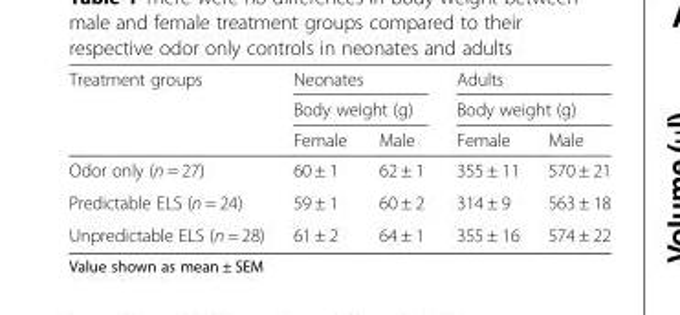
<table><thead><tr><td rowspan="3">Treatment groups</td><td rowspan="2" colspan="2">Neonates Body weight (g)</td><td rowspan="2" colspan="2">Adults Body weight (g)</td></tr><tr></tr><tr><td>Female</td><td>Male</td><td>Female</td><td>Male</td></tr></thead><tbody><tr><td>Odor only (n = 27)</td><td>60 ± 1</td><td>62 ± 1</td><td>355 ± 11</td><td>570 ± 21</td></tr><tr><td>Predictable ELS (n = 24)</td><td>59 ± 1</td><td>60 ± 2</td><td>314 ± 9</td><td>563 ± 18</td></tr><tr><td>Unpredictable ELS (n = 28)</td><td>61 ± 2</td><td>64 ± 1</td><td>355 ± 16</td><td>574 ± 22</td></tr></tbody></table>